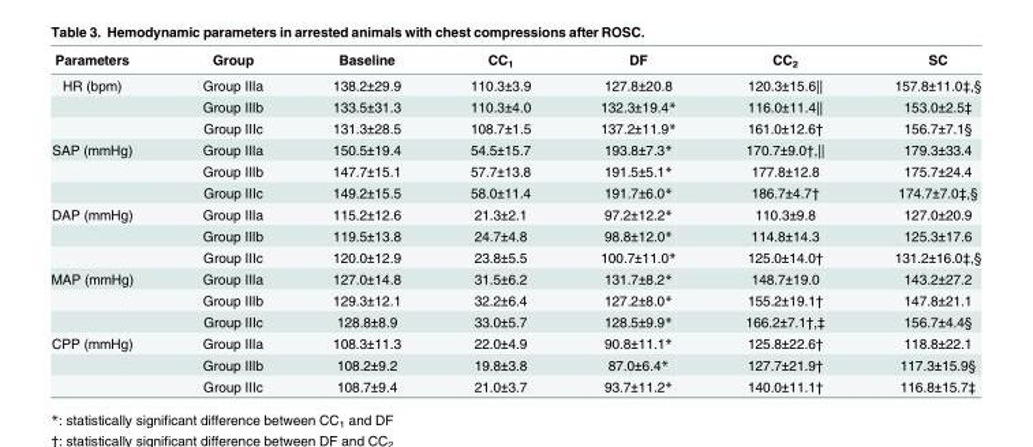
<table><thead><tr><td>Parameters</td><td>Group</td><td>Baseline</td><td>CC<sub>1</sub></td><td>DF</td><td>CC<sub>2</sub></td><td>SC</td></tr></thead><tbody><tr><td rowspan="3">HR (bpm)</td><td>Group IIIa</td><td>138.2±29.9</td><td>110.3±3.9</td><td>127.8±20.8</td><td>120.3±15.6||</td><td>157.8±11.0‡,§</td></tr><tr><td>Group IIIb</td><td>133.5±31.3</td><td>110.3±4.0</td><td>132.3±19.4*</td><td>116.0±11.4||</td><td>153.0±2.5‡</td></tr><tr><td>Group IIIc</td><td>131.3±28.5</td><td>108.7±1.5</td><td>137.2±11.9*</td><td>161.0±12.6†</td><td>156.7±7.1§</td></tr><tr><td rowspan="3">SAP (mmHg)</td><td>Group IIIa</td><td>150.5±19.4</td><td>54.5±15.7</td><td>193.8±7.3*</td><td>170.7±9.0†,||</td><td>179.3±33.4</td></tr><tr><td>Group IIIb</td><td>147.7±15.1</td><td>57.7±13.8</td><td>191.5±5.1*</td><td>177.8±12.8</td><td>175.7±24.4</td></tr><tr><td>Group IIIc</td><td>149.2±15.5</td><td>58.0±11.4</td><td>191.7±6.0*</td><td>186.7±4.7†</td><td>174.7±7.0‡,§</td></tr><tr><td rowspan="3">DAP (mmHg)</td><td>Group IIIa</td><td>115.2±12.6</td><td>21.3±2.1</td><td>97.2±12.2*</td><td>110.3±9.8</td><td>127.0±20.9</td></tr><tr><td>Group IIIb</td><td>119.5±13.8</td><td>24.7±4.8</td><td>98.8±12.0*</td><td>114.8±14.3</td><td>125.3±17.6</td></tr><tr><td>Group IIIc</td><td>120.0±12.9</td><td>23.8±5.5</td><td>100.7±11.0*</td><td>125.0±14.0†</td><td>131.2±16.0‡,§</td></tr><tr><td rowspan="3">MAP (mmHg)</td><td>Group IIIa</td><td>127.0±14.8</td><td>31.5±6.2</td><td>131.7±8.2*</td><td>148.7±19.0</td><td>143.2±27.2</td></tr><tr><td>Group IIIb</td><td>129.3±12.1</td><td>32.2±6.4</td><td>127.2±8.0*</td><td>155.2±19.1†</td><td>147.8±21.1</td></tr><tr><td>Group IIIc</td><td>128.8±8.9</td><td>33.0±5.7</td><td>128.5±9.9*</td><td>166.2±7.1†,‡</td><td>156.7±4.4§</td></tr><tr><td rowspan="3">CPP (mmHg)</td><td>Group IIIa</td><td>108.3±11.3</td><td>22.0±4.9</td><td>90.8±11.1*</td><td>125.8±22.6†</td><td>118.8±22.1</td></tr><tr><td>Group IIIb</td><td>108.2±9.2</td><td>19.8±3.8</td><td>87.0±6.4*</td><td>127.7±21.9†</td><td>117.3±15.9§</td></tr><tr><td>Group IIIc</td><td>108.7±9.4</td><td>21.0±3.7</td><td>93.7±11.2*</td><td>140.0±11.1†</td><td>116.8±15.7‡</td></tr></tbody></table>